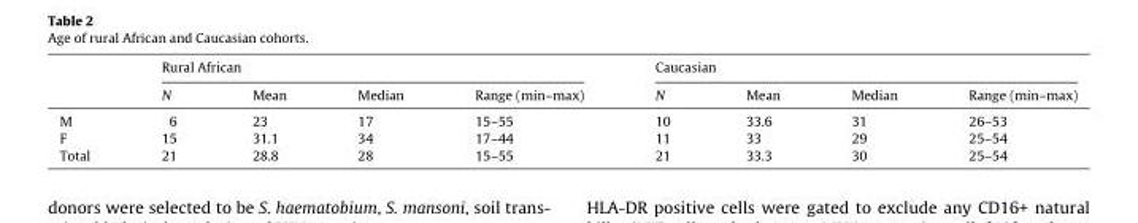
<table><thead><tr><td rowspan="2"></td><td colspan="4">Rural African</td><td colspan="4">Caucasian</td></tr><tr><td>N</td><td>Mean</td><td>Median</td><td>Range (min–max)</td><td>N</td><td>Mean</td><td>Median</td><td>Range (min–max)</td></tr></thead><tbody><tr><td>M</td><td>6</td><td>23</td><td>17</td><td>15–55</td><td>10</td><td>33.6</td><td>31</td><td>26–53</td></tr><tr><td>F</td><td>15</td><td>31.1</td><td>34</td><td>17–44</td><td>11</td><td>33</td><td>29</td><td>25–54</td></tr><tr><td>Total</td><td>21</td><td>28.8</td><td>28</td><td>15–55</td><td>21</td><td>33.3</td><td>30</td><td>25–54</td></tr></tbody></table>